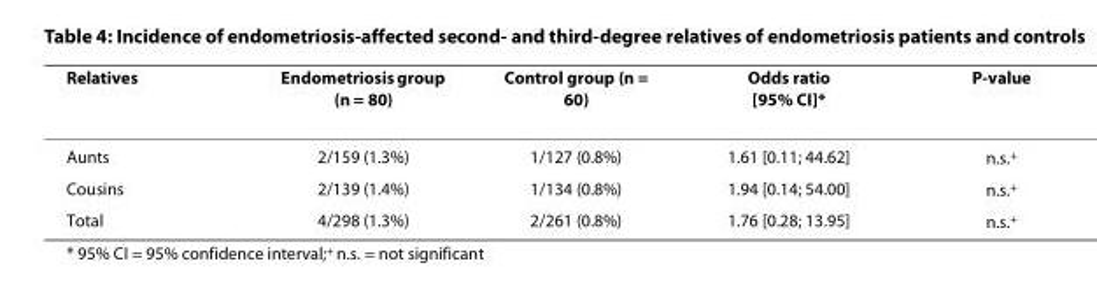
<table><thead><tr><td>Relatives</td><td>Endometriosis group (n = 80)</td><td>Control group (n = 60)</td><td>Odds ratio [95% CI]*</td><td>P-value</td></tr></thead><tbody><tr><td>Aunts</td><td>2/159 (1.3%)</td><td>1/127 (0.8%)</td><td>1.61 [0.11; 44.62]</td><td>n.s.<sup>+</sup></td></tr><tr><td>Cousins</td><td>2/139 (1.4%)</td><td>1/134 (0.8%)</td><td>1.94 [0.14; 54.00]</td><td>n.s.<sup>+</sup></td></tr><tr><td>Total</td><td>4/298 (1.3%)</td><td>2/261 (0.8%)</td><td>1.76 [0.28; 13.95]</td><td>n.s.<sup>+</sup></td></tr></tbody></table>